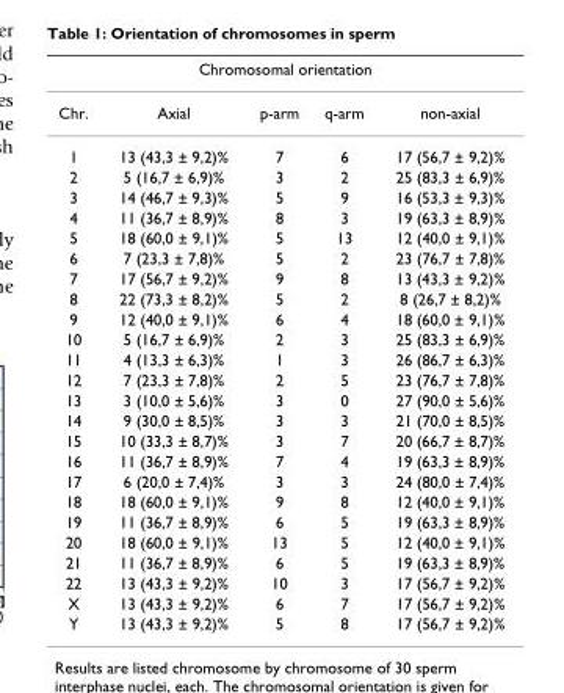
<table><thead><tr><td colspan="5">Chromosomal orientation</td></tr><tr><td>Chr.</td><td>Axial</td><td>p-arm</td><td>q-arm</td><td>non-axial</td></tr></thead><tbody><tr><td>1</td><td>13 (43,3 ± 9,2)%</td><td>7</td><td>6</td><td>17 (56,7 ± 9,2)%</td></tr><tr><td>2</td><td>5 (16,7 ± 6,9)%</td><td>3</td><td>2</td><td>25 (83,3 ± 6,9)%</td></tr><tr><td>3</td><td>14 (46,7 ± 9,3)%</td><td>5</td><td>9</td><td>16 (53,3 ± 9,3)%</td></tr><tr><td>4</td><td>11 (36,7 ± 8,9)%</td><td>8</td><td>3</td><td>19 (63,3 ± 8,9)%</td></tr><tr><td>5</td><td>18 (60,0 ± 9,1)%</td><td>5</td><td>13</td><td>12 (40,0 ± 9,1)%</td></tr><tr><td>6</td><td>7 (23,3 ± 7,8)%</td><td>5</td><td>2</td><td>23 (76,7 ± 7,8)%</td></tr><tr><td>7</td><td>17 (56,7 ± 9,2)%</td><td>9</td><td>8</td><td>13 (43,3 ± 9,2)%</td></tr><tr><td>8</td><td>22 (73,3 ± 8,2)%</td><td>5</td><td>2</td><td>8 (26,7 ± 8,2)%</td></tr><tr><td>9</td><td>12 (40,0 ± 9,1)%</td><td>6</td><td>4</td><td>18 (60,0 ± 9,1)%</td></tr><tr><td>10</td><td>5 (16,7 ± 6,9)%</td><td>2</td><td>3</td><td>25 (83,3 ± 6,9)%</td></tr><tr><td>11</td><td>4 (13,3 ± 6,3)%</td><td>1</td><td>3</td><td>26 (86,7 ± 6,3)%</td></tr><tr><td>12</td><td>7 (23,3 ± 7,8)%</td><td>2</td><td>5</td><td>23 (76,7 ± 7,8)%</td></tr><tr><td>13</td><td>3 (10,0 ± 5,6)%</td><td>3</td><td>0</td><td>27 (90,0 ± 5,6)%</td></tr><tr><td>14</td><td>9 (30,0 ± 8,5)%</td><td>3</td><td>3</td><td>21 (70,0 ± 8,5)%</td></tr><tr><td>15</td><td>10 (33,3 ± 8,7)%</td><td>3</td><td>7</td><td>20 (66,7 ± 8,7)%</td></tr><tr><td>16</td><td>11 (36,7 ± 8,9)%</td><td>7</td><td>4</td><td>19 (63,3 ± 8,9)%</td></tr><tr><td>17</td><td>6 (20,0 ± 7,4)%</td><td>3</td><td>3</td><td>24 (80,0 ± 7,4)%</td></tr><tr><td>18</td><td>18 (60,0 ± 9,1)%</td><td>9</td><td>8</td><td>12 (40,0 ± 9,1)%</td></tr><tr><td>19</td><td>11 (36,7 ± 8,9)%</td><td>6</td><td>5</td><td>19 (63,3 ± 8,9)%</td></tr><tr><td>20</td><td>18 (60,0 ± 9,1)%</td><td>13</td><td>5</td><td>12 (40,0 ± 9,1)%</td></tr><tr><td>21</td><td>11 (36,7 ± 8,9)%</td><td>6</td><td>5</td><td>19 (63,3 ± 8,9)%</td></tr><tr><td>22</td><td>13 (43,3 ± 9,2)%</td><td>10</td><td>3</td><td>17 (56,7 ± 9,2)%</td></tr><tr><td>X</td><td>13 (43,3 ± 9,2)%</td><td>6</td><td>7</td><td>17 (56,7 ± 9,2)%</td></tr><tr><td>Y</td><td>13 (43,3 ± 9,2)%</td><td>5</td><td>8</td><td>17 (56,7 ± 9,2)%</td></tr></tbody></table>